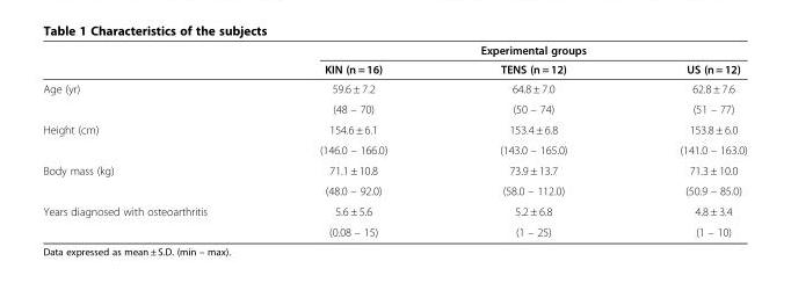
<table><thead><tr><td rowspan="2"></td><td colspan="3">Experimental groups</td></tr><tr><td>KIN (n = 16)</td><td>TENS (n = 12)</td><td>US (n = 12)</td></tr></thead><tbody><tr><td rowspan="2">Age (yr)</td><td>59.6 ± 7.2</td><td>64.8 ± 7.0</td><td>62.8 ± 7.6</td></tr><tr><td>(48 – 70)</td><td>(50 – 74)</td><td>(51 – 77)</td></tr><tr><td rowspan="2">Height (cm)</td><td>154.6 ± 6.1</td><td>153.4 ± 6.8</td><td>153.8 ± 6.0</td></tr><tr><td>(146.0 – 166.0)</td><td>(143.0 – 165.0)</td><td>(141.0 – 163.0)</td></tr><tr><td rowspan="2">Body mass (kg)</td><td>71.1 ± 10.8</td><td>73.9 ± 13.7</td><td>71.3 ± 10.0</td></tr><tr><td>(48.0 – 92.0)</td><td>(58.0 – 112.0)</td><td>(50.9 – 85.0)</td></tr><tr><td rowspan="2">Years diagnosed with osteoarthritis</td><td>5.6 ± 5.6</td><td>5.2 ± 6.8</td><td>4.8 ± 3.4</td></tr><tr><td>(0.08 – 15)</td><td>(1 – 25)</td><td>(1 – 10)</td></tr></tbody></table>